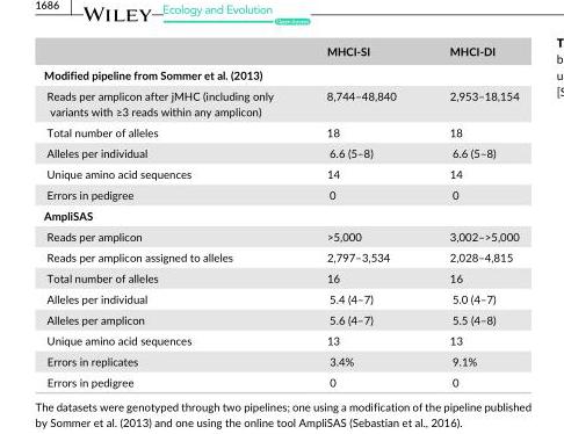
<table><thead><tr><td></td><td>MHCI- SI</td><td>MHCI- DI</td></tr></thead><tbody><tr><td colspan="3">Modified pipeline from Sommer et al. (2013)</td></tr><tr><td>Reads per amplicon after jMHC (including only variants with ≥3 reads within any amplicon)</td><td>8,744–48,840</td><td>2,953–18,154</td></tr><tr><td>Total number of alleles</td><td>18</td><td>18</td></tr><tr><td>Alleles per individual</td><td>6.6 (5–8)</td><td>6.6 (5–8)</td></tr><tr><td>Unique amino acid sequences</td><td>14</td><td>14</td></tr><tr><td>Errors in pedigree</td><td>0</td><td>0</td></tr><tr><td colspan="3">AmpliSAS</td></tr><tr><td>Reads per amplicon</td><td>&gt;5,000</td><td>3,002–&gt;5,000</td></tr><tr><td>Reads per amplicon assigned to alleles</td><td>2,797–3,534</td><td>2,028–4,815</td></tr><tr><td>Total number of alleles</td><td>16</td><td>16</td></tr><tr><td>Alleles per individual</td><td>5.4 (4–7)</td><td>5.0 (4–7)</td></tr><tr><td>Alleles per amplicon</td><td>5.6 (4–7)</td><td>5.5 (4–8)</td></tr><tr><td>Unique amino acid sequences</td><td>13</td><td>13</td></tr><tr><td>Errors in replicates</td><td>3.4%</td><td>9.1%</td></tr><tr><td>Errors in pedigree</td><td>0</td><td>0</td></tr></tbody></table>